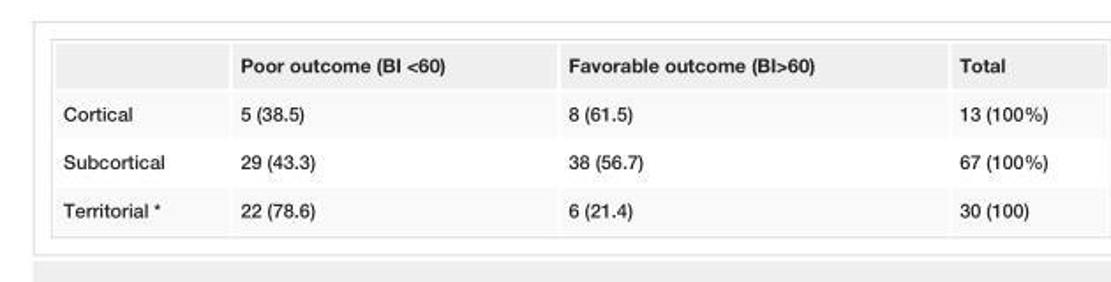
<table><thead><tr><td></td><td>Poor outcome (BI &lt;60)</td><td>Favorable outcome (BI&gt;60)</td><td>Total</td></tr></thead><tbody><tr><td>Cortical</td><td>5 (38.5)</td><td>8 (61.5)</td><td>13 (100%)</td></tr><tr><td>Subcortical</td><td>29 (43.3)</td><td>38 (56.7)</td><td>67 (100%)</td></tr><tr><td>Territorial *</td><td>22 (78.6)</td><td>6 (21.4)</td><td>30 (100)</td></tr></tbody></table>